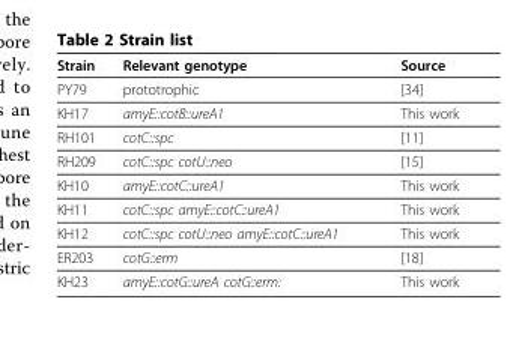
<table><thead><tr><td>Strain</td><td>Relevant genotype</td><td>Source</td></tr></thead><tbody><tr><td>PY79</td><td>prototrophic</td><td>[34]</td></tr><tr><td>KH17</td><td>amyE::cotB::ureA1</td><td>This work</td></tr><tr><td>RH101</td><td>cotC::spc</td><td>[11]</td></tr><tr><td>RH209</td><td>cotC::spc cotU::neo</td><td>[15]</td></tr><tr><td>KH10</td><td>amyE::cotC::ureA1</td><td>This work</td></tr><tr><td>KH11</td><td>cotC::spc amyE::cotC::ureA1</td><td>This work</td></tr><tr><td>KH12</td><td>cotC::spc cotU::neo amyE::cotC::ureA1</td><td>This work</td></tr><tr><td>ER203</td><td>cotG::erm</td><td>[18]</td></tr><tr><td>KH23</td><td>amyE::cotG::ureA cotG::erm:</td><td>This work</td></tr></tbody></table>